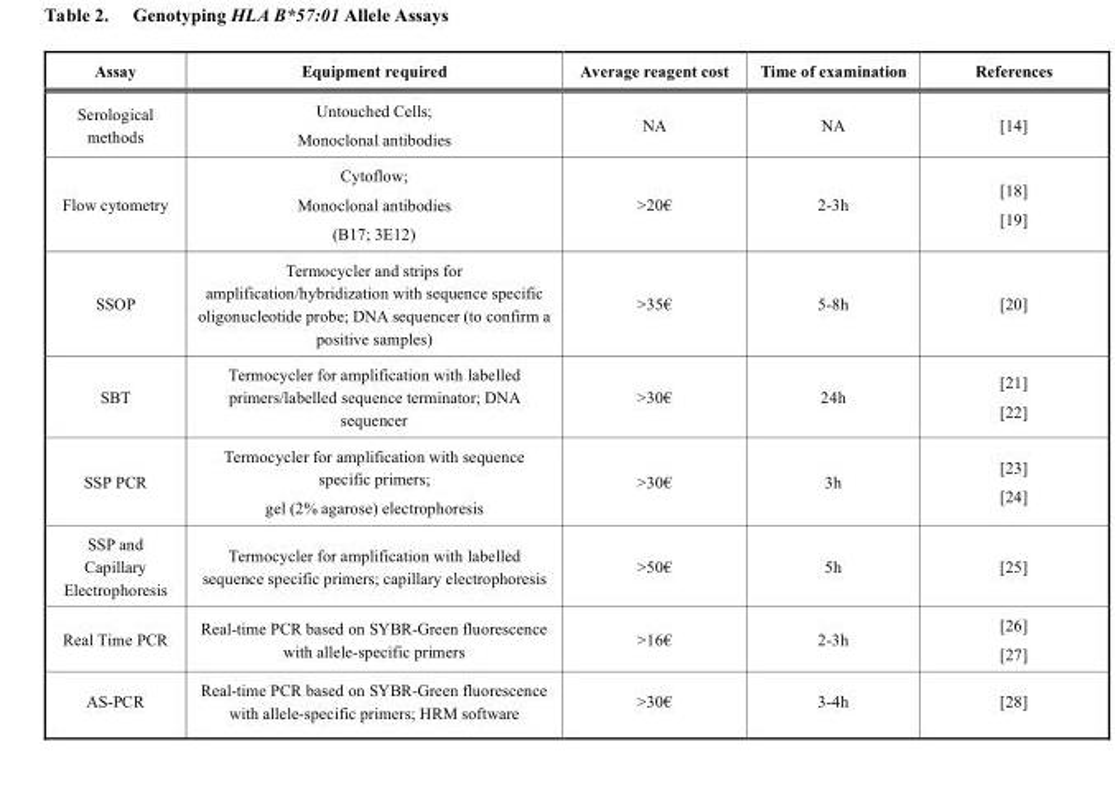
<table><thead><tr><td>Assay</td><td>Equipment required</td><td>Average reagent cost</td><td>Time of examination</td><td>References</td></tr></thead><tbody><tr><td>Serological methods</td><td>Untouched Cells; Monoclonal antibodies</td><td>NA</td><td>NA</td><td>[14]</td></tr><tr><td>Flow cytometry</td><td>Cytoflow; Monoclonal antibodies (B17; 3E12)</td><td>&gt;20€</td><td>2-3h</td><td>[18] [19]</td></tr><tr><td>SSOP</td><td>Termocycler and strips for amplification/hybridization with sequence specific oligonucleotide probe; DNA sequencer (to confirm a positive samples)</td><td>&gt;35€</td><td>5-8h</td><td>[20]</td></tr><tr><td>SBT</td><td>Termocycler for amplification with labelled primers/labelled sequence terminator; DNA sequencer</td><td>&gt;30€</td><td>24h</td><td>[21] [22]</td></tr><tr><td>SSP PCR</td><td>Termocycler for amplification with sequence specific primers; gel (2% agarose) electrophoresis</td><td>&gt;30€</td><td>3h</td><td>[23] [24]</td></tr><tr><td>SSP and Capillary Electrophoresis</td><td>Termocycler for amplification with labelled sequence specific primers; capillary electrophoresis</td><td>&gt;50€</td><td>5h</td><td>[25]</td></tr><tr><td>Real Time PCR</td><td>Real-time PCR based on SYBR-Green fluorescence with allele-specific primers</td><td>&gt;16€</td><td>2-3h</td><td>[26] [27]</td></tr><tr><td>AS-PCR</td><td>Real-time PCR based on SYBR-Green fluorescence with allele-specific primers; HRM software</td><td>&gt;30€</td><td>3-4h</td><td>[28]</td></tr></tbody></table>